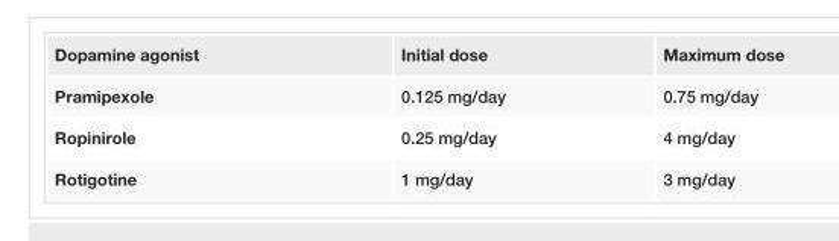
<table><tbody><tr><td>Dopamine agonist</td><td>Initial dose</td><td>Maximum dose</td></tr><tr><td>Pramipexole</td><td>0.125 mg/day</td><td>0.75 mg/day</td></tr><tr><td>Ropinirole</td><td>0.25 mg/day</td><td>4 mg/day</td></tr><tr><td>Rotigotine</td><td>1 mg/day</td><td>3 mg/day</td></tr></tbody></table>